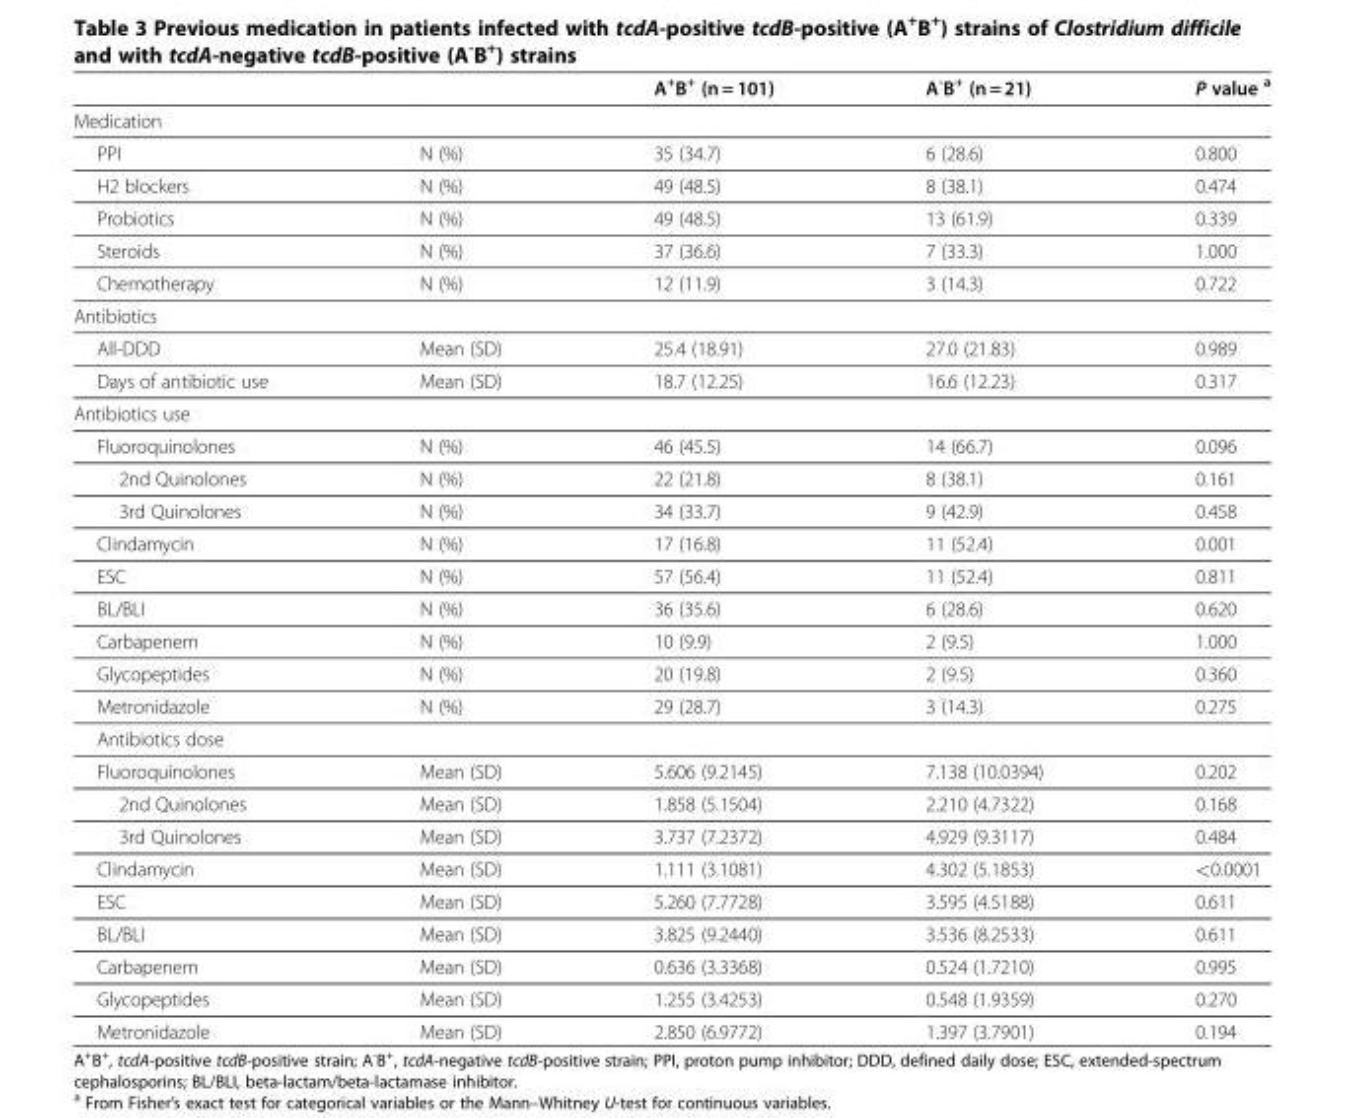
<table><thead><tr><td></td><td></td><td>A<sup>+</sup>B<sup>+</sup> (n = 101)</td><td>A<sup>-</sup>B<sup>+</sup> (n = 21)</td><td>P value <sup>a</sup></td></tr></thead><tbody><tr><td colspan="5">Medication</td></tr><tr><td>PPI</td><td>N (%)</td><td>35 (34.7)</td><td>6 (28.6)</td><td>0.800</td></tr><tr><td>H2 blockers</td><td>N (%)</td><td>49 (48.5)</td><td>8 (38.1)</td><td>0.474</td></tr><tr><td>Probiotics</td><td>N (%)</td><td>49 (48.5)</td><td>13 (61.9)</td><td>0.339</td></tr><tr><td>Steroids</td><td>N (%)</td><td>37 (36.6)</td><td>7 (33.3)</td><td>1.000</td></tr><tr><td>Chemotherapy</td><td>N (%)</td><td>12 (11.9)</td><td>3 (14.3)</td><td>0.722</td></tr><tr><td colspan="5">Antibiotics</td></tr><tr><td>All-DDD</td><td>Mean (SD)</td><td>25.4 (18.91)</td><td>27.0 (21.83)</td><td>0.989</td></tr><tr><td>Days of antibiotic use</td><td>Mean (SD)</td><td>18.7 (12.25)</td><td>16.6 (12.23)</td><td>0.317</td></tr><tr><td colspan="5">Antibiotics use</td></tr><tr><td>Fluoroquinolones</td><td>N (%)</td><td>46 (45.5)</td><td>14 (66.7)</td><td>0.096</td></tr><tr><td>2nd Quinolones</td><td>N (%)</td><td>22 (21.8)</td><td>8 (38.1)</td><td>0.161</td></tr><tr><td>3rd Quinolones</td><td>N (%)</td><td>34 (33.7)</td><td>9 (42.9)</td><td>0.458</td></tr><tr><td>Clindamycin</td><td>N (%)</td><td>17 (16.8)</td><td>11 (52.4)</td><td>0.001</td></tr><tr><td>ESC</td><td>N (%)</td><td>57 (56.4)</td><td>11 (52.4)</td><td>0.811</td></tr><tr><td>BL/BLI</td><td>N (%)</td><td>36 (35.6)</td><td>6 (28.6)</td><td>0.620</td></tr><tr><td>Carbapenem</td><td>N (%)</td><td>10 (9.9)</td><td>2 (9.5)</td><td>1.000</td></tr><tr><td>Glycopeptides</td><td>N (%)</td><td>20 (19.8)</td><td>2 (9.5)</td><td>0.360</td></tr><tr><td>Metronidazole</td><td>N (%)</td><td>29 (28.7)</td><td>3 (14.3)</td><td>0.275</td></tr><tr><td colspan="5">Antibiotics dose</td></tr><tr><td>Fluoroquinolones</td><td>Mean (SD)</td><td>5.606 (9.2145)</td><td>7.138 (10.0394)</td><td>0.202</td></tr><tr><td>2nd Quinolones</td><td>Mean (SD)</td><td>1.858 (5.1504)</td><td>2.210 (4.7322)</td><td>0.168</td></tr><tr><td>3rd Quinolones</td><td>Mean (SD)</td><td>3.737 (7.2372)</td><td>4.929 (9.3117)</td><td>0.484</td></tr><tr><td>Clindamycin</td><td>Mean (SD)</td><td>1.111 (3.1081)</td><td>4.302 (5.1853)</td><td>&lt;0.0001</td></tr><tr><td>ESC</td><td>Mean (SD)</td><td>5.260 (7.7728)</td><td>3.595 (4.5188)</td><td>0.611</td></tr><tr><td>BL/BLI</td><td>Mean (SD)</td><td>3.825 (9.2440)</td><td>3.536 (8.2533)</td><td>0.611</td></tr><tr><td>Carbapenem</td><td>Mean (SD)</td><td>0.636 (3.3368)</td><td>0.524 (1.7210)</td><td>0.995</td></tr><tr><td>Glycopeptides</td><td>Mean (SD)</td><td>1.255 (3.4253)</td><td>0.548 (1.9359)</td><td>0.270</td></tr><tr><td>Metronidazole</td><td>Mean (SD)</td><td>2.850 (6.9772)</td><td>1.397 (3.7901)</td><td>0.194</td></tr></tbody></table>